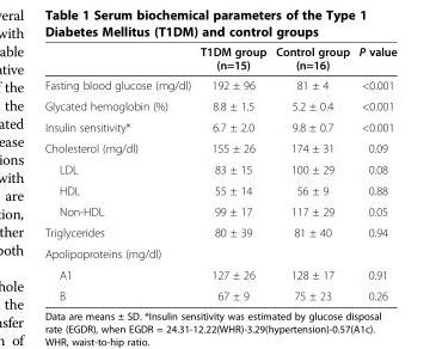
<table><thead><tr><td></td><td>T1DM group (n=15)</td><td>Control group (n=16)</td><td>P value</td></tr></thead><tbody><tr><td>Fasting blood glucose (mg/dl)</td><td>192 ± 96</td><td>81 ± 4</td><td>&lt;0.001</td></tr><tr><td>Glycated hemoglobin (%)</td><td>8.8 ± 1.5</td><td>5.2 ± 0.4</td><td>&lt;0.001</td></tr><tr><td>Insulin sensitivity*</td><td>6.7 ± 2.0</td><td>9.8 ± 0.7</td><td>&lt;0.001</td></tr><tr><td>Cholesterol (mg/dl)</td><td>155 ± 26</td><td>174 ± 31</td><td>0.09</td></tr><tr><td>LDL</td><td>83 ± 15</td><td>100 ± 29</td><td>0.08</td></tr><tr><td>HDL</td><td>55 ± 14</td><td>56 ± 9</td><td>0.88</td></tr><tr><td>Non-HDL</td><td>99 ± 17</td><td>117 ± 29</td><td>0.05</td></tr><tr><td>Triglycerides</td><td>80 ± 39</td><td>81 ± 40</td><td>0.94</td></tr><tr><td colspan="4">Apolipoproteins (mg/dl)</td></tr><tr><td>A1</td><td>127 ± 26</td><td>128 ± 17</td><td>0.91</td></tr><tr><td>B</td><td>67 ± 9</td><td>75 ± 23</td><td>0.26</td></tr></tbody></table>